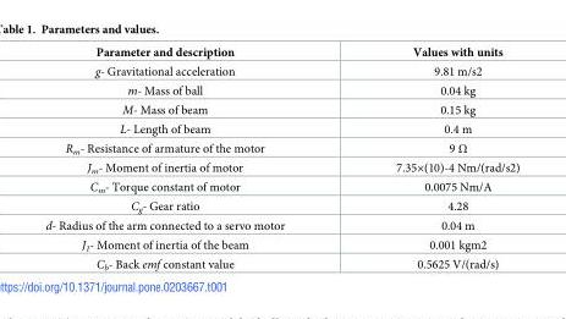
<table><thead><tr><td>Parameter and description</td><td>Values with units</td></tr></thead><tbody><tr><td>g- Gravitational acceleration</td><td>9.81 m/s2</td></tr><tr><td>m- Mass of ball</td><td>0.04 kg</td></tr><tr><td>M- Mass of beam</td><td>0.15 kg</td></tr><tr><td>L- Length of beam</td><td>0.4 m</td></tr><tr><td>R<sub>m</sub>- Resistance of armature of the motor</td><td>9 Ω</td></tr><tr><td>J<sub>m</sub>- Moment of inertia of motor</td><td>7.35×(10)-4 Nm/(rad/s2)</td></tr><tr><td>C<sub>m</sub>- Torque constant of motor</td><td>0.0075 Nm/A</td></tr><tr><td>C<sub>g</sub>- Gear ratio</td><td>4.28</td></tr><tr><td>d- Radius of the arm connected to a servo motor</td><td>0.04 m</td></tr><tr><td>J<sub>1</sub>- Moment of inertia of the beam</td><td>0.001 kgm2</td></tr><tr><td>C<sub>b</sub>- Back emf constant value</td><td>0.5625 V/(rad/s)</td></tr></tbody></table>